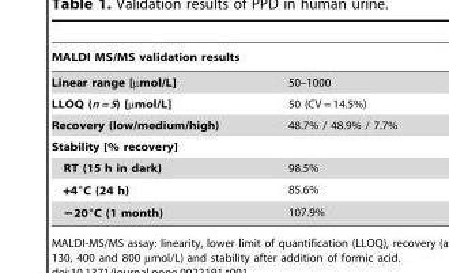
<table><thead><tr><td colspan="2">MALDI MS/MS validation results</td></tr><tr><td>Linear range [µmol/L]</td><td>50–1000</td></tr></thead><tbody><tr><td>LLOQ (n = 5) [µmol/L]</td><td>50 (CV = 14.5%)</td></tr><tr><td>Recovery (low/medium/high)</td><td>48.7% / 48.9% / 7.7%</td></tr><tr><td colspan="2">Stability [% recovery]</td></tr><tr><td>RT (15 h in dark)</td><td>98.5%</td></tr><tr><td>+4°C (24 h)</td><td>85.6%</td></tr><tr><td>−20°C (1 month)</td><td>107.9%</td></tr></tbody></table>